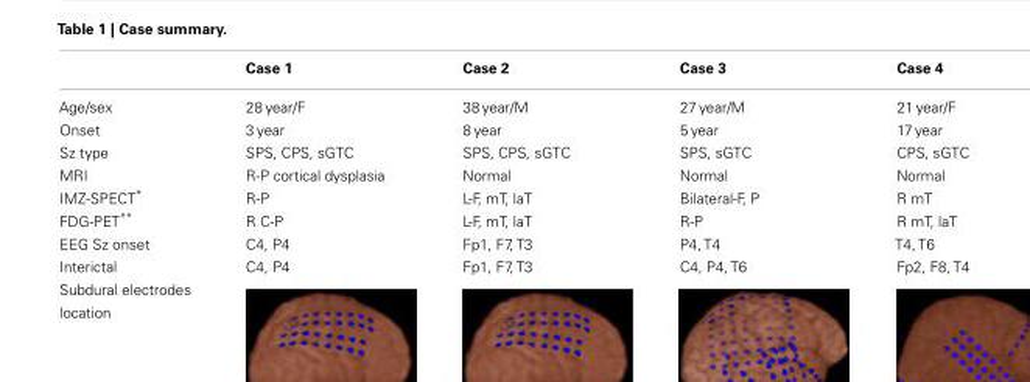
<table><thead><tr><td></td><td>Case 1</td><td>Case 2</td><td>Case 3</td><td>Case 4</td></tr></thead><tbody><tr><td>Age/sex</td><td>28 year/F</td><td>38 year/M</td><td>27 year/M</td><td>21 year/F</td></tr><tr><td>Onset</td><td>3 year</td><td>8 year</td><td>5 year</td><td>17 year</td></tr><tr><td>Sz type</td><td>SPS, CPS, sGTC</td><td>SPS, CPS, sGTC</td><td>SPS, sGTC</td><td>CPS, sGTC</td></tr><tr><td>MRI</td><td>R-P cortical dysplasia</td><td>Normal</td><td>Normal</td><td>Normal</td></tr><tr><td>IMZ-SPECT*</td><td>R-P</td><td>L-F, mT, laT</td><td>Bilateral-F, P</td><td>R mT</td></tr><tr><td>FDG-PET**</td><td>R C-P</td><td>L-F, mT, laT</td><td>R-P</td><td>R mT, laT</td></tr><tr><td>EEG Sz onset</td><td>C4, P4</td><td>Fp1, F7, T3</td><td>P4, T4</td><td>T4, T6</td></tr><tr><td>Interictal</td><td>C4, P4</td><td>Fp1, F7, T3</td><td>C4, P4, T6</td><td>Fp2, F8, T4</td></tr><tr><td>Subdural electrodes location</td><td></td><td></td><td></td><td></td></tr></tbody></table>